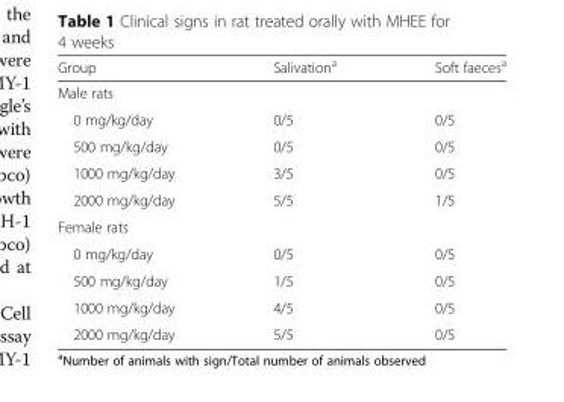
<table><thead><tr><td>Group</td><td>Salivation<sup>a</sup></td><td>Soft faeces<sup>a</sup></td></tr></thead><tbody><tr><td colspan="3">Male rats</td></tr><tr><td>0 mg/kg/day</td><td>0/5</td><td>0/5</td></tr><tr><td>500 mg/kg/day</td><td>0/5</td><td>0/5</td></tr><tr><td>1000 mg/kg/day</td><td>3/5</td><td>0/5</td></tr><tr><td>2000 mg/kg/day</td><td>5/5</td><td>1/5</td></tr><tr><td colspan="3">Female rats</td></tr><tr><td>0 mg/kg/day</td><td>0/5</td><td>0/5</td></tr><tr><td>500 mg/kg/day</td><td>1/5</td><td>0/5</td></tr><tr><td>1000 mg/kg/day</td><td>4/5</td><td>0/5</td></tr><tr><td>2000 mg/kg/day</td><td>5/5</td><td>0/5</td></tr></tbody></table>